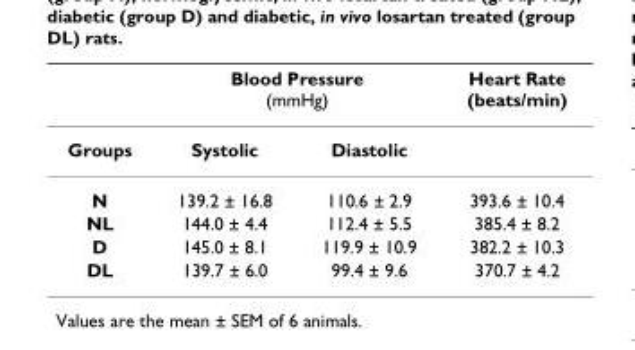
<table><thead><tr><td rowspan="2">Groups</td><td colspan="2">Blood Pressure (mmHg)</td><td rowspan="2">Heart Rate (beats/min)</td></tr><tr><td>Systolic</td><td>Diastolic</td></tr></thead><tbody><tr><td>N</td><td>139.2 ± 16.8</td><td>110.6 ± 2.9</td><td>393.6 ± 10.4</td></tr><tr><td>NL</td><td>144.0 ± 4.4</td><td>112.4 ± 5.5</td><td>385.4 ± 8.2</td></tr><tr><td>D</td><td>145.0 ± 8.1</td><td>119.9 ± 10.9</td><td>382.2 ± 10.3</td></tr><tr><td>DL</td><td>139.7 ± 6.0</td><td>99.4 ± 9.6</td><td>370.7 ± 4.2</td></tr></tbody></table>